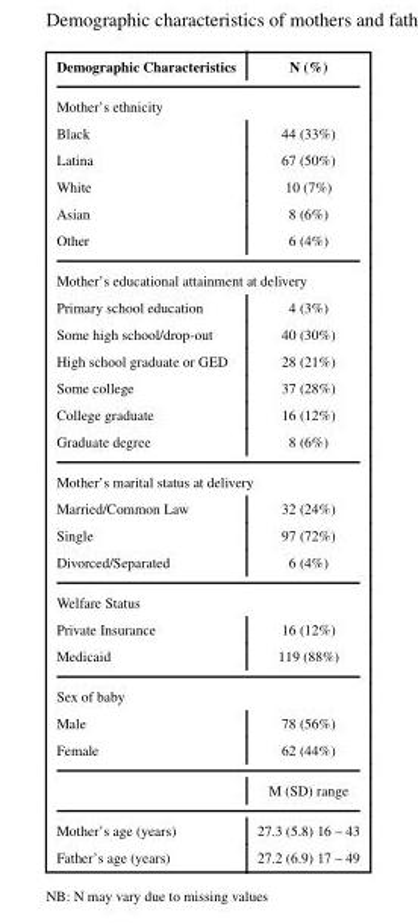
<table><thead><tr><td>Demographic Characteristics</td><td>N (%)</td></tr></thead><tbody><tr><td colspan="2">Mother’s ethnicity</td></tr><tr><td>Black</td><td>44 (33%)</td></tr><tr><td>Latina</td><td>67 (50%)</td></tr><tr><td>White</td><td>10 (7%)</td></tr><tr><td>Asian</td><td>8 (6%)</td></tr><tr><td>Other</td><td>6 (4%)</td></tr><tr><td colspan="2">Mother’s educational attainment at delivery</td></tr><tr><td>Primary school education</td><td>4 (3%)</td></tr><tr><td>Some high school/drop-out</td><td>40 (30%)</td></tr><tr><td>High school graduate or GED</td><td>28 (21%)</td></tr><tr><td>Some college</td><td>37 (28%)</td></tr><tr><td>College graduate</td><td>16 (12%)</td></tr><tr><td>Graduate degree</td><td>8 (6%)</td></tr><tr><td colspan="2">Mother’s marital status at delivery</td></tr><tr><td>Married/Common Law</td><td>32 (24%)</td></tr><tr><td>Single</td><td>97 (72%)</td></tr><tr><td>Divorced/Separated</td><td>6 (4%)</td></tr><tr><td colspan="2">Welfare Status</td></tr><tr><td>Private Insurance</td><td>16 (12%)</td></tr><tr><td>Medicaid</td><td>119 (88%)</td></tr><tr><td colspan="2">Sex of baby</td></tr><tr><td>Male</td><td>78 (56%)</td></tr><tr><td rowspan="2">Female</td><td>62 (44%)</td></tr><tr><td>M (SD) range</td></tr><tr><td>Mother’s age (years)</td><td>27.3 (5.8) 16 – 43</td></tr><tr><td>Father’s age (years)</td><td>27.2 (6.9) 17 – 49</td></tr></tbody></table>